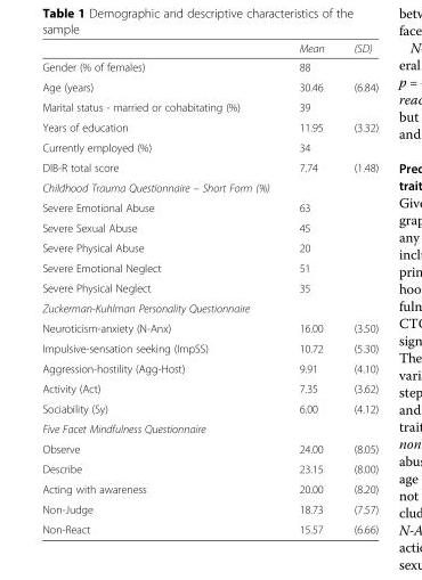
<table><thead><tr><td></td><td>Mean</td><td>(SD)</td></tr></thead><tbody><tr><td>Gender (% of females)</td><td>88</td><td></td></tr><tr><td>Age (years)</td><td>30.46</td><td>(6.84)</td></tr><tr><td>Marital status - married or cohabitating (%)</td><td>39</td><td></td></tr><tr><td>Years of education</td><td>11.95</td><td>(3.32)</td></tr><tr><td>Currently employed (%)</td><td>34</td><td></td></tr><tr><td>DIB-R total score</td><td>7.74</td><td>(1.48)</td></tr><tr><td colspan="3">Childhood Trauma Questionnaire – Short Form (%)</td></tr><tr><td>Severe Emotional Abuse</td><td>63</td><td></td></tr><tr><td>Severe Sexual Abuse</td><td>45</td><td></td></tr><tr><td>Severe Physical Abuse</td><td>20</td><td></td></tr><tr><td>Severe Emotional Neglect</td><td>51</td><td></td></tr><tr><td>Severe Physical Neglect</td><td>35</td><td></td></tr><tr><td colspan="3">Zuckerman-Kuhlman Personality Questionnaire</td></tr><tr><td>Neuroticism-anxiety (N-Anx)</td><td>16.00</td><td>(3.50)</td></tr><tr><td>Impulsive-sensation seeking (ImpSS)</td><td>10.72</td><td>(5.30)</td></tr><tr><td>Aggression-hostility (Agg-Host)</td><td>9.91</td><td>(4.10)</td></tr><tr><td>Activity (Act)</td><td>7.35</td><td>(3.62)</td></tr><tr><td>Sociability (Sy)</td><td>6.00</td><td>(4.12)</td></tr><tr><td colspan="3">Five Facet Mindfulness Questionnaire</td></tr><tr><td>Observe</td><td>24.00</td><td>(8.05)</td></tr><tr><td>Describe</td><td>23.15</td><td>(8.00)</td></tr><tr><td>Acting with awareness</td><td>20.00</td><td>(8.20)</td></tr><tr><td>Non-Judge</td><td>18.73</td><td>(7.57)</td></tr><tr><td>Non-React</td><td>15.57</td><td>(6.66)</td></tr></tbody></table>